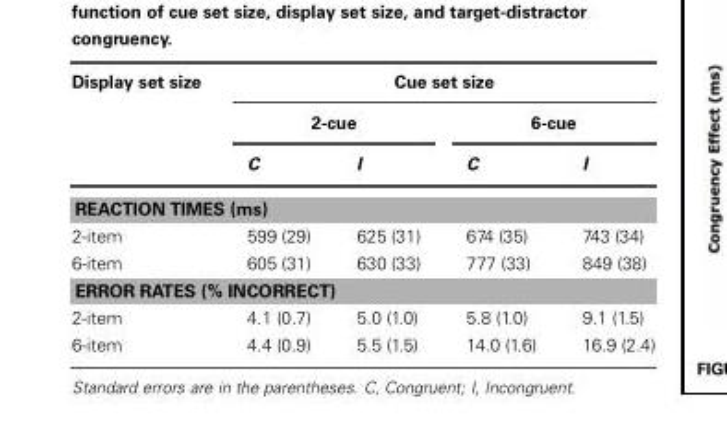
<table><thead><tr><td rowspan="3">Display set size</td><td colspan="4">Cue set size</td></tr><tr><td colspan="2">2-cue</td><td colspan="2">6-cue</td></tr><tr><td>C</td><td>I</td><td>C</td><td>I</td></tr></thead><tbody><tr><td colspan="5">REACTION TIMES (ms)</td></tr><tr><td>2-item</td><td>599 (29)</td><td>625 (31)</td><td>674 (35)</td><td>743 (34)</td></tr><tr><td>6-item</td><td>605 (31)</td><td>630 (33)</td><td>777 (33)</td><td>849 (38)</td></tr><tr><td colspan="5">ERROR RATES (% INCORRECT)</td></tr><tr><td>2-item</td><td>4.1 (0.7)</td><td>5.0 (1.0)</td><td>5.8 (1.0)</td><td>9.1 (1.5)</td></tr><tr><td>6-item</td><td>4.4 (0.9)</td><td>5.5 (1.5)</td><td>14.0 (1.6)</td><td>16.9 (2.4)</td></tr></tbody></table>